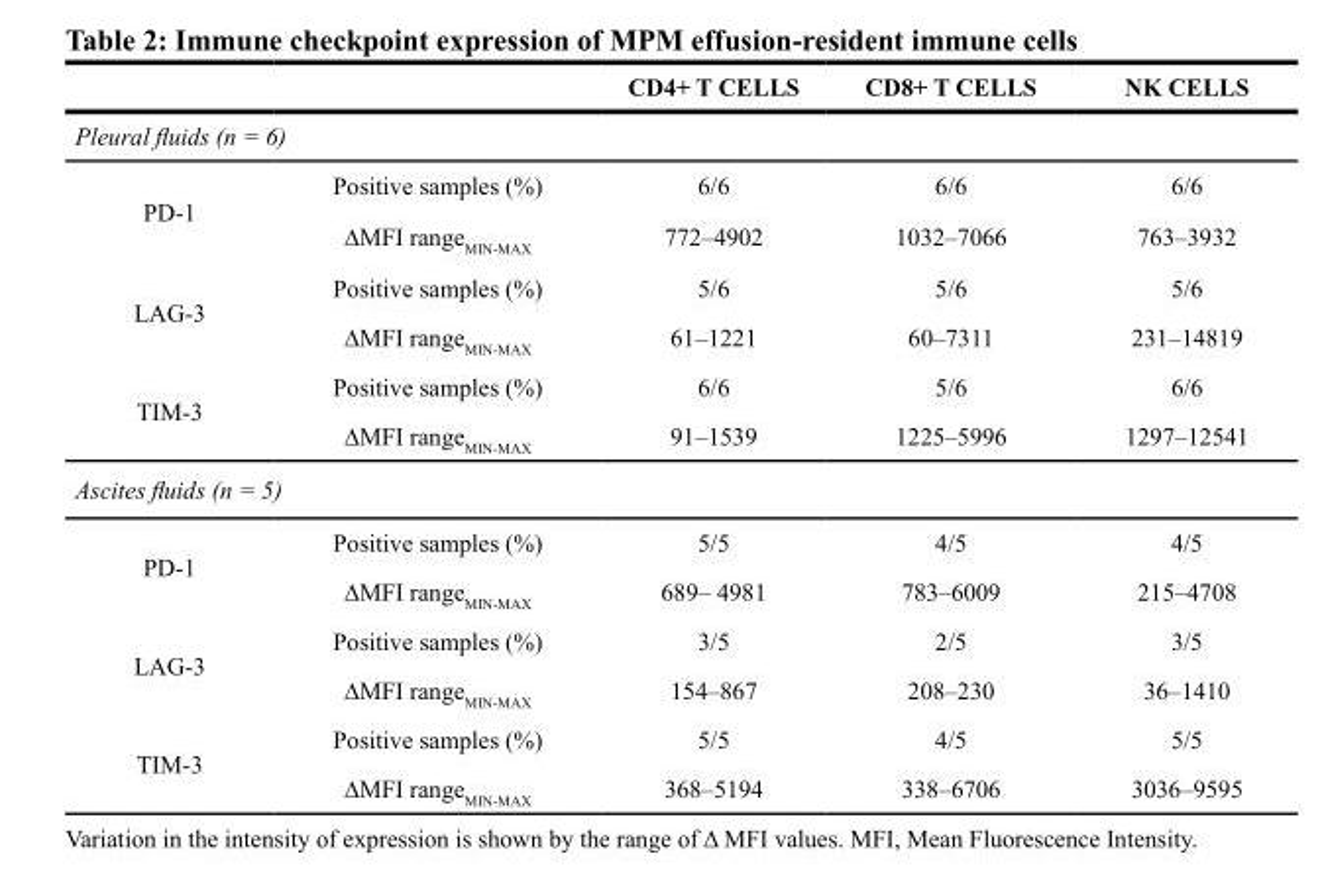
<table><thead><tr><td></td><td></td><td>CD4+ T CELLS</td><td>CD8+ T CELLS</td><td>NK CELLS</td></tr></thead><tbody><tr><td colspan="5">Pleural fluids (n = 6)</td></tr><tr><td rowspan="2">PD-1</td><td>Positive samples (%)</td><td>6/6</td><td>6/6</td><td>6/6</td></tr><tr><td>∆MFI rangeMIN-MAX</td><td>772–4902</td><td>1032–7066</td><td>763–3932</td></tr><tr><td rowspan="2">LAG-3</td><td>Positive samples (%)</td><td>5/6</td><td>5/6</td><td>5/6</td></tr><tr><td>∆MFI rangeMIN-MAX</td><td>61–1221</td><td>60–7311</td><td>231–14819</td></tr><tr><td rowspan="2">TIM-3</td><td>Positive samples (%)</td><td>6/6</td><td>5/6</td><td>6/6</td></tr><tr><td>∆MFI rangeMIN-MAX</td><td>91–1539</td><td>1225–5996</td><td>1297–12541</td></tr><tr><td colspan="5">Ascites fluids (n = 5)</td></tr><tr><td rowspan="2">PD-1</td><td>Positive samples (%)</td><td>5/5</td><td>4/5</td><td>4/5</td></tr><tr><td>∆MFI rangeMIN-MAX</td><td>689– 4981</td><td>783–6009</td><td>215–4708</td></tr><tr><td rowspan="2">LAG-3</td><td>Positive samples (%)</td><td>3/5</td><td>2/5</td><td>3/5</td></tr><tr><td>∆MFI rangeMIN-MAX</td><td>154–867</td><td>208–230</td><td>36–1410</td></tr><tr><td rowspan="2">TIM-3</td><td>Positive samples (%)</td><td>5/5</td><td>4/5</td><td>5/5</td></tr><tr><td>∆MFI rangeMIN-MAX</td><td>368–5194</td><td>338–6706</td><td>3036–9595</td></tr></tbody></table>